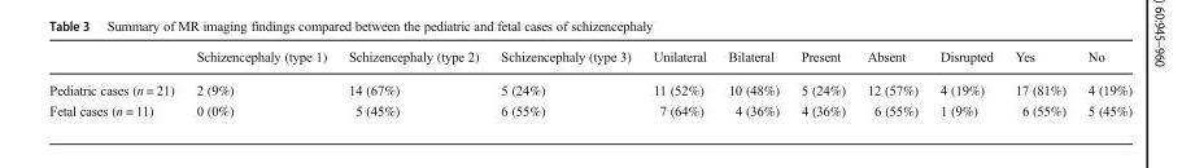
<table><thead><tr><td></td><td>Schizencephaly (type 1)</td><td>Schizencephaly (type 2)</td><td>Schizencephaly (type 3)</td><td>Unilateral</td><td>Bilateral</td><td>Present</td><td>Absent</td><td>Disrupted</td><td>Yes</td><td>No</td></tr></thead><tbody><tr><td>Pediatric cases (n = 21)</td><td>2 (9%)</td><td>14 (67%)</td><td>5 (24%)</td><td>11 (52%)</td><td>10 (48%)</td><td>5 (24%)</td><td>12 (57%)</td><td>4 (19%)</td><td>17 (81%)</td><td>4 (19%)</td></tr><tr><td>Fetal cases (n = 11)</td><td>0 (0%)</td><td>5 (45%)</td><td>6 (55%)</td><td>7 (64%)</td><td>4 (36%)</td><td>4 (36%)</td><td>6 (55%)</td><td>1 (9%)</td><td>6 (55%)</td><td>5 (45%)</td></tr></tbody></table>